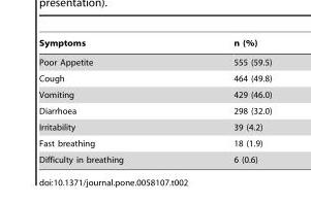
<table><thead><tr><td>Symptoms</td><td>n (%)</td></tr></thead><tbody><tr><td>Poor Appetite</td><td>555 (59.5)</td></tr><tr><td>Cough</td><td>464 (49.8)</td></tr><tr><td>Vomiting</td><td>429 (46.0)</td></tr><tr><td>Diarrhoea</td><td>298 (32.0)</td></tr><tr><td>Irritability</td><td>39 (4.2)</td></tr><tr><td>Fast breathing</td><td>18 (1.9)</td></tr><tr><td>Difficulty in breathing</td><td>6 (0.6)</td></tr></tbody></table>